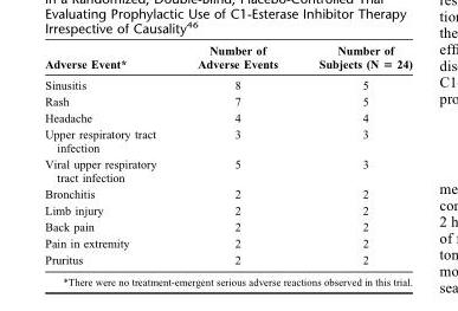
<table><thead><tr><td>Adverse Event*</td><td>Number of Adverse Events</td><td>Number of Subjects (N = 24)</td></tr></thead><tbody><tr><td>Sinusitis</td><td>8</td><td>5</td></tr><tr><td>Rash</td><td>7</td><td>5</td></tr><tr><td>Headache</td><td>4</td><td>4</td></tr><tr><td>Upper respiratory tract infection</td><td>3</td><td>3</td></tr><tr><td>Viral upper respiratory tract infection</td><td>5</td><td>3</td></tr><tr><td>Bronchitis</td><td>2</td><td>2</td></tr><tr><td>Limb injury</td><td>2</td><td>2</td></tr><tr><td>Back pain</td><td>2</td><td>2</td></tr><tr><td>Pain in extremity</td><td>2</td><td>2</td></tr><tr><td>Pruritus</td><td>2</td><td>2</td></tr></tbody></table>